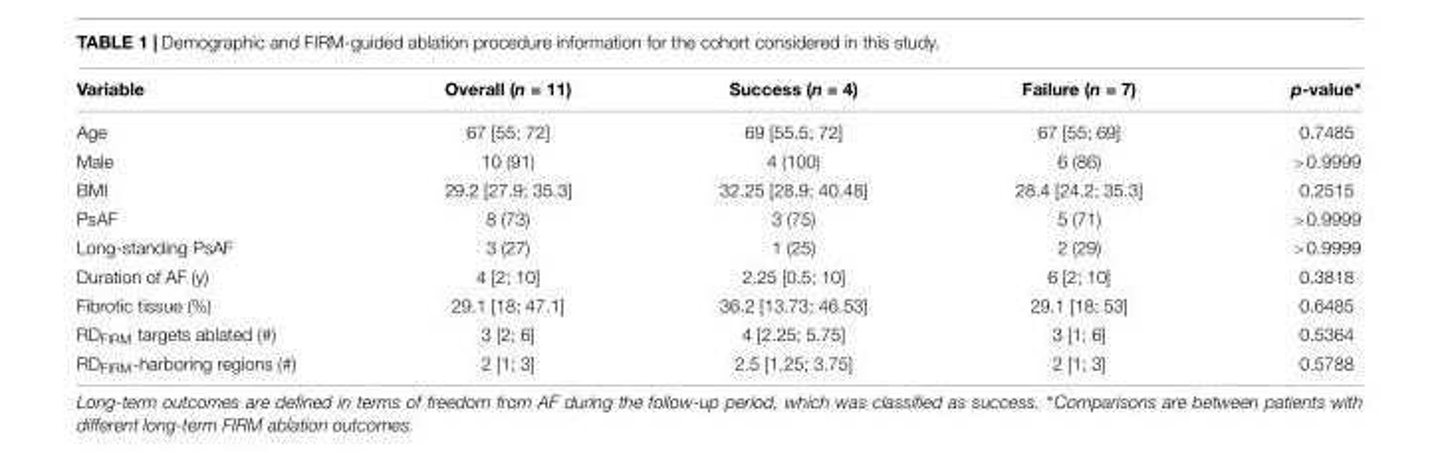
<table><thead><tr><td>Variable</td><td>Overall (n = 11)</td><td>Success (n = 4)</td><td>Failure (n = 7)</td><td>p-value∗</td></tr></thead><tbody><tr><td>Age</td><td>67 [55; 72]</td><td>69 [55.5; 72]</td><td>67 [55; 69]</td><td>0.7485</td></tr><tr><td>Male</td><td>10 (91)</td><td>4 (100)</td><td>6 (86)</td><td>&gt;0.9999</td></tr><tr><td>BMI</td><td>29.2 [27.9; 35.3]</td><td>32.25 [28.9; 40.48]</td><td>28.4 [24.2; 35.3]</td><td>0.2515</td></tr><tr><td>PsAF</td><td>8 (73)</td><td>3 (75)</td><td>5 (71)</td><td>&gt;0.9999</td></tr><tr><td>Long-standing PsAF</td><td>3 (27)</td><td>1 (25)</td><td>2 (29)</td><td>&gt;0.9999</td></tr><tr><td>Duration of AF (y)</td><td>4 [2; 10]</td><td>2.25 [0.5; 10]</td><td>6 [2; 10]</td><td>0.3818</td></tr><tr><td>Fibrotic tissue (%)</td><td>29.1 [18; 47.1]</td><td>36.2 [13.73; 46.53]</td><td>29.1 [18; 53]</td><td>0.6485</td></tr><tr><td>RD<sub>FIRM</sub> targets ablated (#)</td><td>3 [2; 6]</td><td>4 [2.25; 5.75]</td><td>3 [1; 6]</td><td>0.5364</td></tr><tr><td>RD<sub>FIRM</sub>-harboring regions (#)</td><td>2 [1; 3]</td><td>2.5 [1.25; 3.75]</td><td>2 [1; 3]</td><td>0.5788</td></tr></tbody></table>